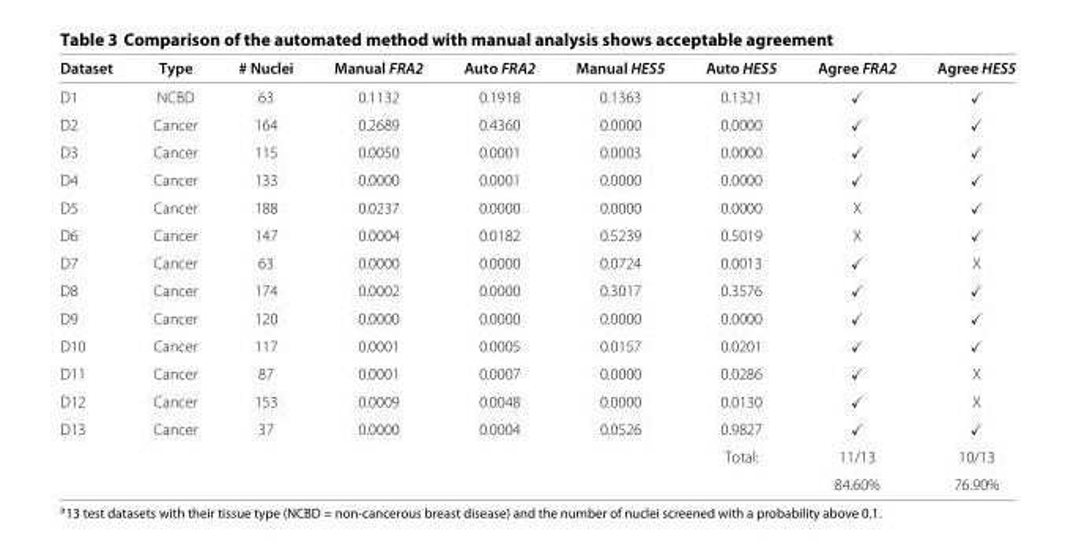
<table><thead><tr><td>Dataset</td><td>Type</td><td># Nuclei</td><td>Manual FRA2</td><td>Auto FRA2</td><td>Manual HES5</td><td>Auto HES5</td><td>Agree FRA2</td><td>Agree HES5</td></tr></thead><tbody><tr><td>D1</td><td>NCBD</td><td>63</td><td>0.1132</td><td>0.1918</td><td>0.1363</td><td>0.1321</td><td>✓</td><td>✓</td></tr><tr><td>D2</td><td>Cancer</td><td>164</td><td>0.2689</td><td>0.4360</td><td>0.0000</td><td>0.0000</td><td>✓</td><td>✓</td></tr><tr><td>D3</td><td>Cancer</td><td>115</td><td>0.0050</td><td>0.0001</td><td>0.0003</td><td>0.0000</td><td>✓</td><td>✓</td></tr><tr><td>D4</td><td>Cancer</td><td>133</td><td>0.0000</td><td>0.0001</td><td>0.0000</td><td>0.0000</td><td>✓</td><td>✓</td></tr><tr><td>D5</td><td>Cancer</td><td>188</td><td>0.0237</td><td>0.0000</td><td>0.0000</td><td>0.0000</td><td>X</td><td>✓</td></tr><tr><td>D6</td><td>Cancer</td><td>147</td><td>0.0004</td><td>0.0182</td><td>0.5239</td><td>0.5019</td><td>X</td><td>✓</td></tr><tr><td>D7</td><td>Cancer</td><td>63</td><td>0.0000</td><td>0.0000</td><td>0.0724</td><td>0.0013</td><td>✓</td><td>X</td></tr><tr><td>D8</td><td>Cancer</td><td>174</td><td>0.0002</td><td>0.0000</td><td>0.3017</td><td>0.3576</td><td>✓</td><td>✓</td></tr><tr><td>D9</td><td>Cancer</td><td>120</td><td>0.0000</td><td>0.0000</td><td>0.0000</td><td>0.0000</td><td>✓</td><td>✓</td></tr><tr><td>D10</td><td>Cancer</td><td>117</td><td>0.0001</td><td>0.0005</td><td>0.0157</td><td>0.0201</td><td>✓</td><td>✓</td></tr><tr><td>D11</td><td>Cancer</td><td>87</td><td>0.0001</td><td>0.0007</td><td>0.0000</td><td>0.0286</td><td>✓</td><td>X</td></tr><tr><td>D12</td><td>Cancer</td><td>153</td><td>0.0009</td><td>0.0048</td><td>0.0000</td><td>0.0130</td><td>✓</td><td>X</td></tr><tr><td rowspan="3">D13</td><td>Cancer</td><td>37</td><td>0.0000</td><td>0.0004</td><td>0.0526</td><td>0.9827</td><td>✓</td><td>✓</td></tr><tr><td></td><td></td><td></td><td></td><td></td><td>Total:</td><td>11/13</td><td>10/13</td></tr><tr><td></td><td></td><td></td><td></td><td></td><td></td><td>84.60%</td><td>76.90%</td></tr></tbody></table>